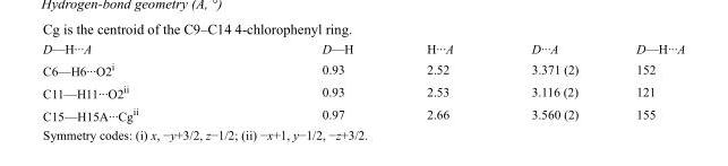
<table><tbody><tr><td>D—H···A</td><td>D—H</td><td>H···A</td><td>D···A</td><td>D—H···A</td></tr><tr><td>C6—H6···O2<sup>i</sup></td><td>0.93</td><td>2.52</td><td>3.371 (2)</td><td>152</td></tr><tr><td>C11—H11···O2<sup>ii</sup></td><td>0.93</td><td>2.53</td><td>3.116 (2)</td><td>121</td></tr><tr><td>C15—H15A···Cg<sup>ii</sup></td><td>0.97</td><td>2.66</td><td>3.560 (2)</td><td>155</td></tr></tbody></table>